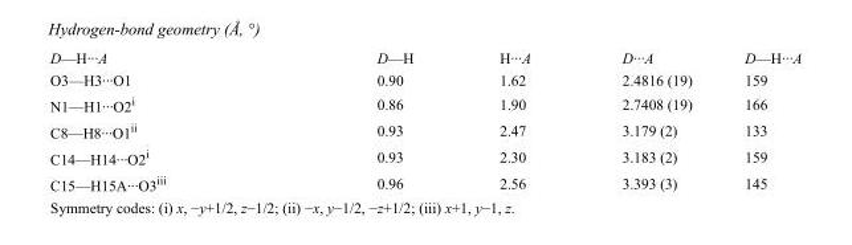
<table><tbody><tr><td>D—H···A</td><td>D—H</td><td>H···A</td><td>D···A</td><td>D—H···A</td></tr><tr><td>O3—H3···O1</td><td>0.90</td><td>1.62</td><td>2.4816 (19)</td><td>159</td></tr><tr><td>N1—H1···O2<sup>i</sup></td><td>0.86</td><td>1.90</td><td>2.7408 (19)</td><td>166</td></tr><tr><td>C8—H8···O1<sup>ii</sup></td><td>0.93</td><td>2.47</td><td>3.179 (2)</td><td>133</td></tr><tr><td>C14—H14···O2<sup>i</sup></td><td>0.93</td><td>2.30</td><td>3.183 (2)</td><td>159</td></tr><tr><td>C15—H15A···O3<sup>iii</sup></td><td>0.96</td><td>2.56</td><td>3.393 (3)</td><td>145</td></tr></tbody></table>